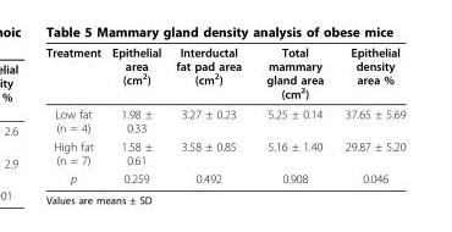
<table><thead><tr><td>Treatment</td><td>Epithelial area (cm<sup>2</sup>)</td><td>Interductal fat pad area (cm<sup>2</sup>)</td><td>Total mammary gland area (cm<sup>2</sup>)</td><td>Epithelial density area %</td></tr></thead><tbody><tr><td>Low fat (n = 4)</td><td>1.98 ± 0.33</td><td>3.27 ± 0.23</td><td>5.25 ± 0.14</td><td>37.65 ± 5.69</td></tr><tr><td>High fat (n = 7)</td><td>1.58 ± 0.61</td><td>3.58 ± 0.85</td><td>5.16 ± 1.40</td><td>29.87 ± 5.20</td></tr><tr><td>p</td><td>0.259</td><td>0.492</td><td>0.908</td><td>0.046</td></tr></tbody></table>